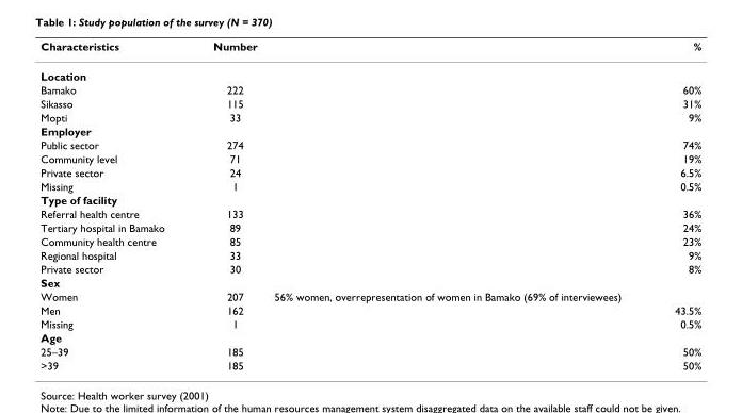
<table><thead><tr><td>Characteristics</td><td>Number</td><td>%</td></tr></thead><tbody><tr><td colspan="3">Location</td></tr><tr><td>Bamako</td><td>222</td><td>60%</td></tr><tr><td>Sikasso</td><td>115</td><td>31%</td></tr><tr><td>Mopti</td><td>33</td><td>9%</td></tr><tr><td colspan="3">Employer</td></tr><tr><td>Public sector</td><td>274</td><td>74%</td></tr><tr><td>Community level</td><td>71</td><td>19%</td></tr><tr><td>Private sector</td><td>24</td><td>6.5%</td></tr><tr><td>Missing</td><td>1</td><td>0.5%</td></tr><tr><td colspan="3">Type of facility</td></tr><tr><td>Referral health centre</td><td>133</td><td>36%</td></tr><tr><td>Tertiary hospital in Bamako</td><td>89</td><td>24%</td></tr><tr><td>Community health centre</td><td>85</td><td>23%</td></tr><tr><td>Regional hospital</td><td>33</td><td>9%</td></tr><tr><td>Private sector</td><td>30</td><td>8%</td></tr><tr><td colspan="3">Sex</td></tr><tr><td>Women</td><td>207</td><td>56% women, overrepresentation of women in Bamako (69% of interviewees)</td></tr><tr><td>Men</td><td>162</td><td>43.5%</td></tr><tr><td>Missing</td><td>1</td><td>0.5%</td></tr><tr><td colspan="3">Age</td></tr><tr><td>25–39</td><td>185</td><td>50%</td></tr><tr><td>&gt;39</td><td>185</td><td>50%</td></tr></tbody></table>